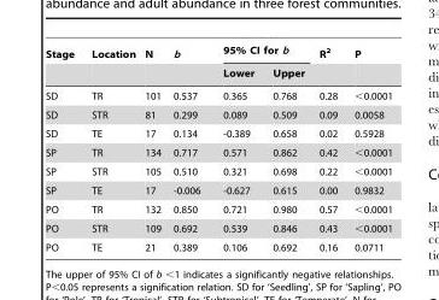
<table><thead><tr><td rowspan="2">Stage</td><td rowspan="2">Location</td><td rowspan="2">N</td><td rowspan="2">b</td><td colspan="2">95% CI for b</td><td rowspan="2">R<sup>2</sup></td><td rowspan="2">P</td></tr><tr><td>Lower</td><td>Upper</td></tr></thead><tbody><tr><td>SD</td><td>TR</td><td>101</td><td>0.537</td><td>0.365</td><td>0.768</td><td>0.28</td><td>&lt;0.0001</td></tr><tr><td>SD</td><td>STR</td><td>81</td><td>0.299</td><td>0.089</td><td>0.509</td><td>0.09</td><td>0.0058</td></tr><tr><td>SD</td><td>TE</td><td>17</td><td>0.134</td><td>-0.389</td><td>0.658</td><td>0.02</td><td>0.5928</td></tr><tr><td>SP</td><td>TR</td><td>134</td><td>0.717</td><td>0.571</td><td>0.862</td><td>0.42</td><td>&lt;0.0001</td></tr><tr><td>SP</td><td>STR</td><td>105</td><td>0.510</td><td>0.321</td><td>0.698</td><td>0.22</td><td>&lt;0.0001</td></tr><tr><td>SP</td><td>TE</td><td>17</td><td>-0.006</td><td>-0.627</td><td>0.615</td><td>0.00</td><td>0.9832</td></tr><tr><td>PO</td><td>TR</td><td>132</td><td>0.850</td><td>0.721</td><td>0.980</td><td>0.57</td><td>&lt;0.0001</td></tr><tr><td>PO</td><td>STR</td><td>109</td><td>0.692</td><td>0.539</td><td>0.846</td><td>0.43</td><td>&lt;0.0001</td></tr><tr><td>PO</td><td>TE</td><td>21</td><td>0.389</td><td>0.106</td><td>0.692</td><td>0.16</td><td>0.0711</td></tr></tbody></table>